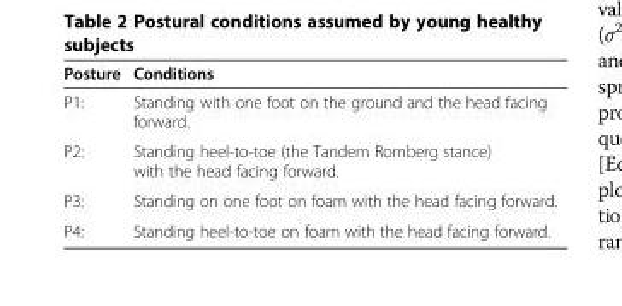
<table><thead><tr><td>Posture</td><td>Conditions</td></tr></thead><tbody><tr><td>P1:</td><td>Standing with one foot on the ground and the head facing forward.</td></tr><tr><td>P2:</td><td>Standing heel-to-toe (the Tandem Romberg stance) with the head facing forward.</td></tr><tr><td>P3:</td><td>Standing on one foot on foam with the head facing forward.</td></tr><tr><td>P4:</td><td>Standing heel-to-toe on foam with the head facing forward.</td></tr></tbody></table>